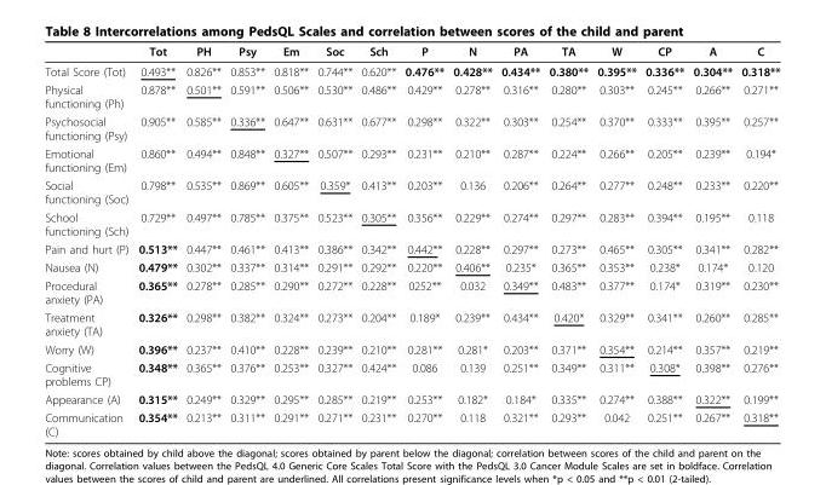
<table><thead><tr><td></td><td>Tot</td><td>PH</td><td>Psy</td><td>Em</td><td>Soc</td><td>Sch</td><td>P</td><td>N</td><td>PA</td><td>TA</td><td>W</td><td>CP</td><td>A</td><td>C</td></tr></thead><tbody><tr><td>Total Score (Tot)</td><td>0.493**</td><td>0.826**</td><td>0.853**</td><td>0.818**</td><td>0.744**</td><td>0.620**</td><td>0.476**</td><td>0.428**</td><td>0.434**</td><td>0.380**</td><td>0.395**</td><td>0.336**</td><td>0.304**</td><td>0.318**</td></tr><tr><td>Physical functioning (Ph)</td><td>0.878**</td><td>0.501**</td><td>0.591**</td><td>0.506**</td><td>0.530**</td><td>0.486**</td><td>0.429**</td><td>0.278**</td><td>0.316**</td><td>0.280**</td><td>0.303**</td><td>0.245**</td><td>0.266**</td><td>0.271**</td></tr><tr><td>Psychosocial functioning (Psy)</td><td>0.905**</td><td>0.585**</td><td>0.336**</td><td>0.647**</td><td>0.631**</td><td>0.677**</td><td>0.298**</td><td>0.322**</td><td>0.303**</td><td>0.254**</td><td>0.370**</td><td>0.333**</td><td>0.395**</td><td>0.257**</td></tr><tr><td>Emotional functioning (Em)</td><td>0.860**</td><td>0.494**</td><td>0.848**</td><td>0.327**</td><td>0.507**</td><td>0.293**</td><td>0.231**</td><td>0.210**</td><td>0.287**</td><td>0.224**</td><td>0.266**</td><td>0.205**</td><td>0.239**</td><td>0.194*</td></tr><tr><td>Social functioning (Soc)</td><td>0.798**</td><td>0.535**</td><td>0.869**</td><td>0.605**</td><td>0.359*</td><td>0.413**</td><td>0.203**</td><td>0.136</td><td>0.206**</td><td>0.264**</td><td>0.277**</td><td>0.248**</td><td>0.233**</td><td>0.220**</td></tr><tr><td>School functioning (Sch)</td><td>0.729**</td><td>0.497**</td><td>0.785**</td><td>0.375**</td><td>0.523**</td><td>0.305**</td><td>0.356**</td><td>0.229**</td><td>0.274**</td><td>0.297**</td><td>0.283**</td><td>0.394**</td><td>0.195**</td><td>0.118</td></tr><tr><td>Pain and hurt (P)</td><td>0.513**</td><td>0.447**</td><td>0.461**</td><td>0.413**</td><td>0.386**</td><td>0.342**</td><td>0.442**</td><td>0.228**</td><td>0.297**</td><td>0.273**</td><td>0.465**</td><td>0.305**</td><td>0.341**</td><td>0.282**</td></tr><tr><td>Nausea (N)</td><td>0.479**</td><td>0.302**</td><td>0.337**</td><td>0.314**</td><td>0.291**</td><td>0.292**</td><td>0.220**</td><td>0.406**</td><td>0.235*</td><td>0.365**</td><td>0.353**</td><td>0.238*</td><td>0.174*</td><td>0.120</td></tr><tr><td>Procedural anxiety (PA)</td><td>0.365**</td><td>0.278**</td><td>0.285**</td><td>0.290**</td><td>0.272**</td><td>0.228**</td><td>0252**</td><td>0.032</td><td>0.349**</td><td>0.483**</td><td>0.377**</td><td>0.174*</td><td>0.319**</td><td>0.230**</td></tr><tr><td>Treatment anxiety (TA)</td><td>0.326**</td><td>0.298**</td><td>0.382**</td><td>0.324**</td><td>0.273**</td><td>0.204**</td><td>0.189*</td><td>0.239**</td><td>0.434**</td><td>0.420*</td><td>0.329**</td><td>0.341**</td><td>0.260**</td><td>0.285**</td></tr><tr><td>Worry (W)</td><td>0.396**</td><td>0.237**</td><td>0.410**</td><td>0.228**</td><td>0.239**</td><td>0.210**</td><td>0.281**</td><td>0.281*</td><td>0.203**</td><td>0.371**</td><td>0.354**</td><td>0.214**</td><td>0.357**</td><td>0.219**</td></tr><tr><td>Cognitive problems CP)</td><td>0.348**</td><td>0.365**</td><td>0.376**</td><td>0.253**</td><td>0.327**</td><td>0.424**</td><td>0.086</td><td>0.139</td><td>0.251**</td><td>0.349**</td><td>0.311**</td><td>0.308*</td><td>0.398**</td><td>0.276**</td></tr><tr><td>Appearance (A)</td><td>0.315**</td><td>0.249**</td><td>0.329**</td><td>0.295**</td><td>0.285**</td><td>0.219**</td><td>0.253**</td><td>0.182*</td><td>0.184*</td><td>0.335**</td><td>0.274**</td><td>0.388**</td><td>0.322**</td><td>0.199**</td></tr><tr><td>Communication (C)</td><td>0.354**</td><td>0.213**</td><td>0.311**</td><td>0.291**</td><td>0.271**</td><td>0.231**</td><td>0.270**</td><td>0.118</td><td>0.321**</td><td>0.293**</td><td>0.042</td><td>0.251**</td><td>0.267**</td><td>0.318**</td></tr></tbody></table>